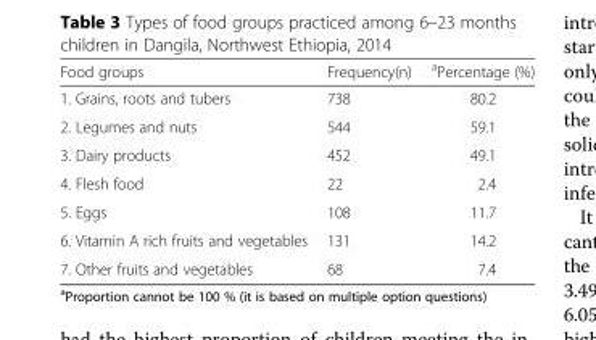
<table><thead><tr><td>Food groups</td><td>Frequency(n)</td><td><sup>a</sup>Percentage (%)</td></tr></thead><tbody><tr><td>1. Grains, roots and tubers</td><td>738</td><td>80.2</td></tr><tr><td>2. Legumes and nuts</td><td>544</td><td>59.1</td></tr><tr><td>3. Dairy products</td><td>452</td><td>49.1</td></tr><tr><td>4. Flesh food</td><td>22</td><td>2.4</td></tr><tr><td>5. Eggs</td><td>108</td><td>11.7</td></tr><tr><td>6. Vitamin A rich fruits and vegetables</td><td>131</td><td>14.2</td></tr><tr><td>7. Other fruits and vegetables</td><td>68</td><td>7.4</td></tr></tbody></table>